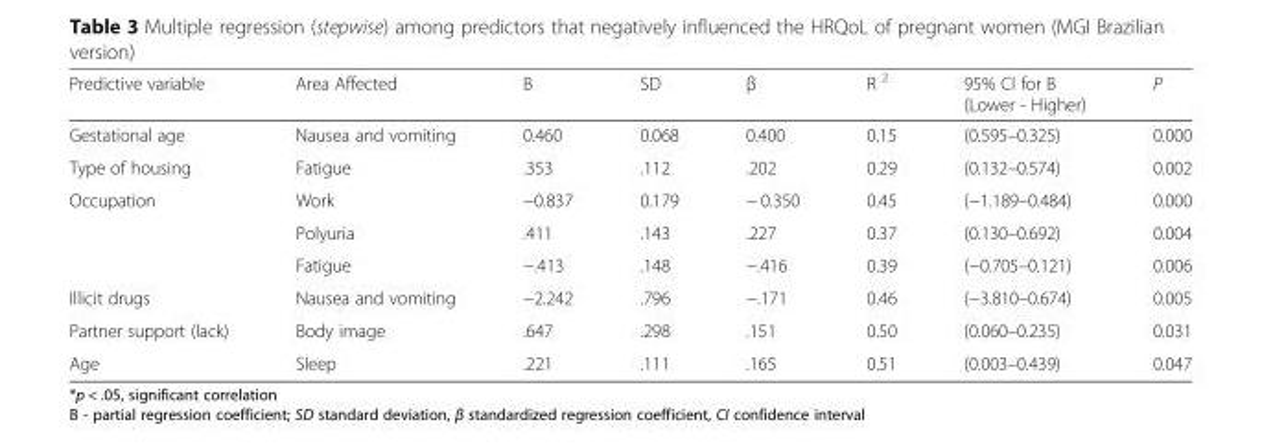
<table><thead><tr><td>Predictive variable</td><td>Area Affected</td><td>B</td><td>SD</td><td>β</td><td>R <sup>2</sup></td><td>95% CI for B (Lower - Higher)</td><td>P</td></tr></thead><tbody><tr><td>Gestational age</td><td>Nausea and vomiting</td><td>0.460</td><td>0.068</td><td>0.400</td><td>0.15</td><td>(0.595–0.325)</td><td>0.000</td></tr><tr><td>Type of housing</td><td>Fatigue</td><td>.353</td><td>.112</td><td>.202</td><td>0.29</td><td>(0.132–0.574)</td><td>0.002</td></tr><tr><td rowspan="3">Occupation</td><td>Work</td><td>−0.837</td><td>0.179</td><td>− 0.350</td><td>0.45</td><td>(−1.189–0.484)</td><td>0.000</td></tr><tr><td>Polyuria</td><td>.411</td><td>.143</td><td>.227</td><td>0.37</td><td>(0.130–0.692)</td><td>0.004</td></tr><tr><td>Fatigue</td><td>−.413</td><td>.148</td><td>−.416</td><td>0.39</td><td>(−0.705–0.121)</td><td>0.006</td></tr><tr><td>Illicit drugs</td><td>Nausea and vomiting</td><td>−2.242</td><td>.796</td><td>−.171</td><td>0.46</td><td>(−3.810–0.674)</td><td>0.005</td></tr><tr><td>Partner support (lack)</td><td>Body image</td><td>.647</td><td>.298</td><td>.151</td><td>0.50</td><td>(0.060–0.235)</td><td>0.031</td></tr><tr><td>Age</td><td>Sleep</td><td>.221</td><td>.111</td><td>.165</td><td>0.51</td><td>(0.003–0.439)</td><td>0.047</td></tr></tbody></table>